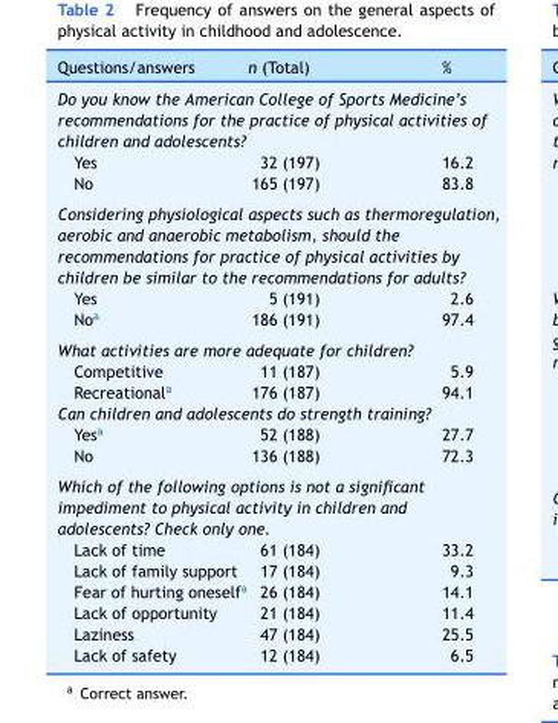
<table><thead><tr><td>Questions/answers</td><td>n (Total)</td><td>%</td></tr></thead><tbody><tr><td colspan="3">Do you know the American College of Sports Medicine’s recommendations for the practice of physical activities of children and adolescents?</td></tr><tr><td>Yes</td><td>32 (197)</td><td>16.2</td></tr><tr><td>No</td><td>165 (197)</td><td>83.8</td></tr><tr><td colspan="3">Considering physiological aspects such as thermoregulation, aerobic and anaerobic metabolism, should the recommendations for practice of physical activities by children be similar to the recommendations for adults?</td></tr><tr><td>Yes</td><td>5 (191)</td><td>2.6</td></tr><tr><td>No<sup>a</sup></td><td>186 (191)</td><td>97.4</td></tr><tr><td colspan="3">What activities are more adequate for children?</td></tr><tr><td>Competitive</td><td>11 (187)</td><td>5.9</td></tr><tr><td>Recreational<sup>a</sup></td><td>176 (187)</td><td>94.1</td></tr><tr><td colspan="3">Can children and adolescents do strength training?</td></tr><tr><td>Yes<sup>a</sup></td><td>52 (188)</td><td>27.7</td></tr><tr><td>No</td><td>136 (188)</td><td>72.3</td></tr><tr><td colspan="3">Which of the following options is not a significant impediment to physical activity in children and adolescents? Check only one.</td></tr><tr><td>Lack of time</td><td>61 (184)</td><td>33.2</td></tr><tr><td>Lack of family support</td><td>17 (184)</td><td>9.3</td></tr><tr><td>Fear of hurting oneself<sup>a</sup></td><td>26 (184)</td><td>14.1</td></tr><tr><td>Lack of opportunity</td><td>21 (184)</td><td>11.4</td></tr><tr><td>Laziness</td><td>47 (184)</td><td>25.5</td></tr><tr><td>Lack of safety</td><td>12 (184)</td><td>6.5</td></tr></tbody></table>